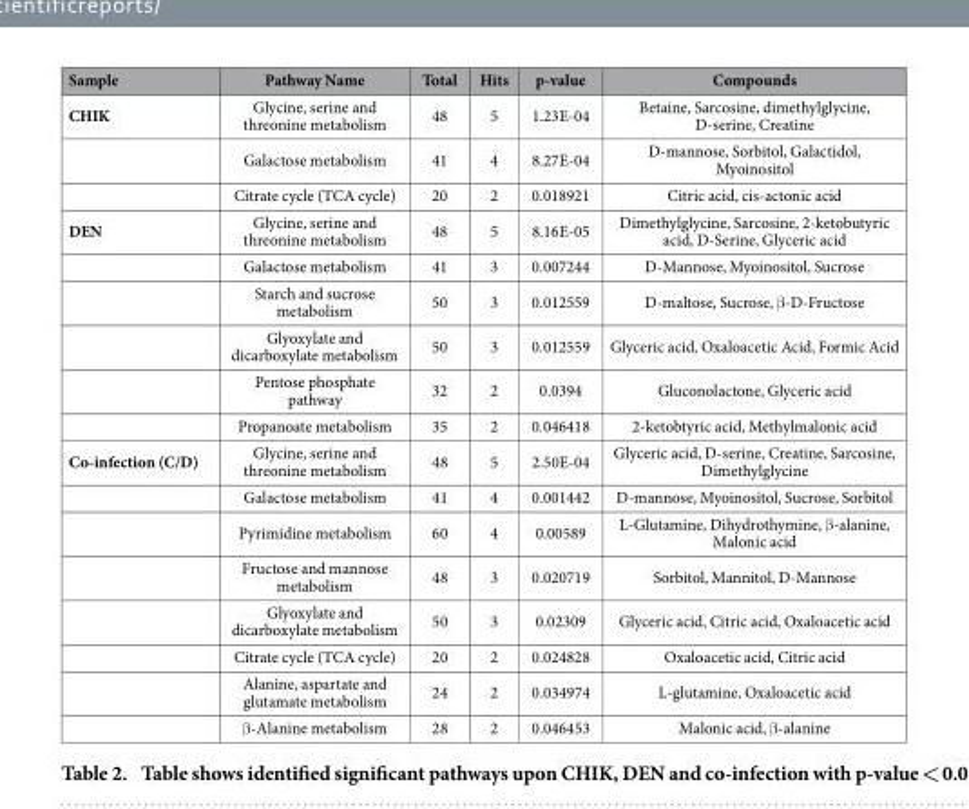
<table><thead><tr><td>Sample</td><td>Pathway Name</td><td>Total</td><td>Hits</td><td>p-value</td><td>Compounds</td></tr></thead><tbody><tr><td rowspan="3">CHIK</td><td>Glycine, serine and threonine metabolism</td><td>48</td><td>5</td><td>1.23E-04</td><td>Betaine, Sarcosine, dimethylglycine, D-serine, Creatine</td></tr><tr><td>Galactose metabolism</td><td>41</td><td>4</td><td>8.27E-04</td><td>D-mannose, Sorbitol, Galactidol, Myoinositol</td></tr><tr><td>Citrate cycle (TCA cycle)</td><td>20</td><td>2</td><td>0.018921</td><td>Citric acid, cis-actonic acid</td></tr><tr><td rowspan="6">DEN</td><td>Glycine, serine and threonine metabolism</td><td>48</td><td>5</td><td>8.16E-05</td><td>Dimethylglycine, Sarcosine, 2-ketobutyric acid, D-Serine, Glyceric acid</td></tr><tr><td>Galactose metabolism</td><td>41</td><td>3</td><td>0.007244</td><td>D-Mannose, Myoinositol, Sucrose</td></tr><tr><td>Starch and sucrose metabolism</td><td>50</td><td>3</td><td>0.012559</td><td>D-maltose, Sucrose, β -D-Fructose</td></tr><tr><td>Glyoxylate and dicarboxylate metabolism</td><td>50</td><td>3</td><td>0.012559</td><td>Glyceric acid, Oxaloacetic Acid, Formic Acid</td></tr><tr><td>Pentose phosphate pathway</td><td>32</td><td>2</td><td>0.0394</td><td>Gluconolactone, Glyceric acid</td></tr><tr><td>Propanoate metabolism</td><td>35</td><td>2</td><td>0.046418</td><td>2-ketobtyric acid, Methylmalonic acid</td></tr><tr><td rowspan="8">Co-infection (C/D)</td><td>Glycine, serine and threonine metabolism</td><td>48</td><td>5</td><td>2.50E-04</td><td>Glyceric acid, D-serine, Creatine, Sarcosine, Dimethylglycine</td></tr><tr><td>Galactose metabolism</td><td>41</td><td>4</td><td>0.001442</td><td>D-mannose, Myoinositol, Sucrose, Sorbitol</td></tr><tr><td>Pyrimidine metabolism</td><td>60</td><td>4</td><td>0.00589</td><td>L-Glutamine, Dihydrothymine, β -alanine, Malonic acid</td></tr><tr><td>Fructose and mannose metabolism</td><td>48</td><td>3</td><td>0.020719</td><td>Sorbitol, Mannitol, D-Mannose</td></tr><tr><td>Glyoxylate and dicarboxylate metabolism</td><td>50</td><td>3</td><td>0.02309</td><td>Glyceric acid, Citric acid, Oxaloacetic acid</td></tr><tr><td>Citrate cycle (TCA cycle)</td><td>20</td><td>2</td><td>0.024828</td><td>Oxaloacetic acid, Citric acid</td></tr><tr><td>Alanine, aspartate and glutamate metabolism</td><td>24</td><td>2</td><td>0.034974</td><td>L-glutamine, Oxaloacetic acid</td></tr><tr><td>β -Alanine metabolism</td><td>28</td><td>2</td><td>0.046453</td><td>Malonic acid, β -alanine</td></tr></tbody></table>